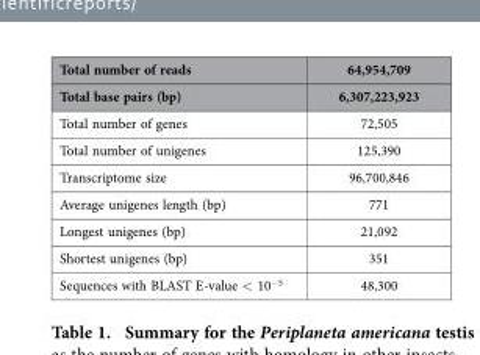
<table><thead><tr><td rowspan="2">Total number of reads Total base pairs (bp)</td><td rowspan="2">64,954,709 6,307,223,923</td></tr><tr></tr></thead><tbody><tr><td>Total number of genes</td><td>72,505</td></tr><tr><td>Total number of unigenes</td><td>125,390</td></tr><tr><td>Transcriptome size</td><td>96,700,846</td></tr><tr><td>Average unigenes length (bp)</td><td>771</td></tr><tr><td>Longest unigenes (bp)</td><td>21,092</td></tr><tr><td>Shortest unigenes (bp)</td><td>351</td></tr><tr><td>Sequences with BLAST E-value &lt; 10<sup>−5</sup></td><td>48,300</td></tr></tbody></table>